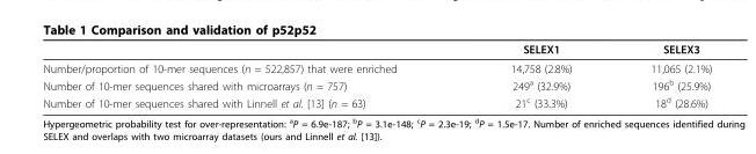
<table><thead><tr><td></td><td>SELEX1</td><td>SELEX3</td></tr></thead><tbody><tr><td>Number/proportion of 10-mer sequences (n = 522,857) that were enriched</td><td>14,758 (2.8%)</td><td>11,065 (2.1%)</td></tr><tr><td>Number of 10-mer sequences shared with microarrays (n = 757)</td><td>249<sup>a</sup> (32.9%)</td><td>196<sup>b</sup> (25.9%)</td></tr><tr><td>Number of 10-mer sequences shared with Linnell et al. [13] (n = 63)</td><td>21<sup>c</sup> (33.3%)</td><td>18<sup>d</sup> (28.6%)</td></tr></tbody></table>